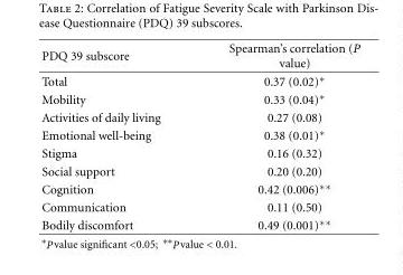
<table><thead><tr><td>PDQ 39 subscore</td><td>Spearman’s correlation (P value)</td></tr></thead><tbody><tr><td>Total</td><td>0.37 (0.02)∗</td></tr><tr><td>Mobility</td><td>0.33 (0.04)∗</td></tr><tr><td>Activities of daily living</td><td>0.27 (0.08)</td></tr><tr><td>Emotional well-being</td><td>0.38 (0.01)∗</td></tr><tr><td>Stigma</td><td>0.16 (0.32)</td></tr><tr><td>Social support</td><td>0.20 (0.20)</td></tr><tr><td>Cognition</td><td>0.42 (0.006)∗∗</td></tr><tr><td>Communication</td><td>0.11 (0.50)</td></tr><tr><td>Bodily discomfort</td><td>0.49 (0.001)∗∗</td></tr></tbody></table>